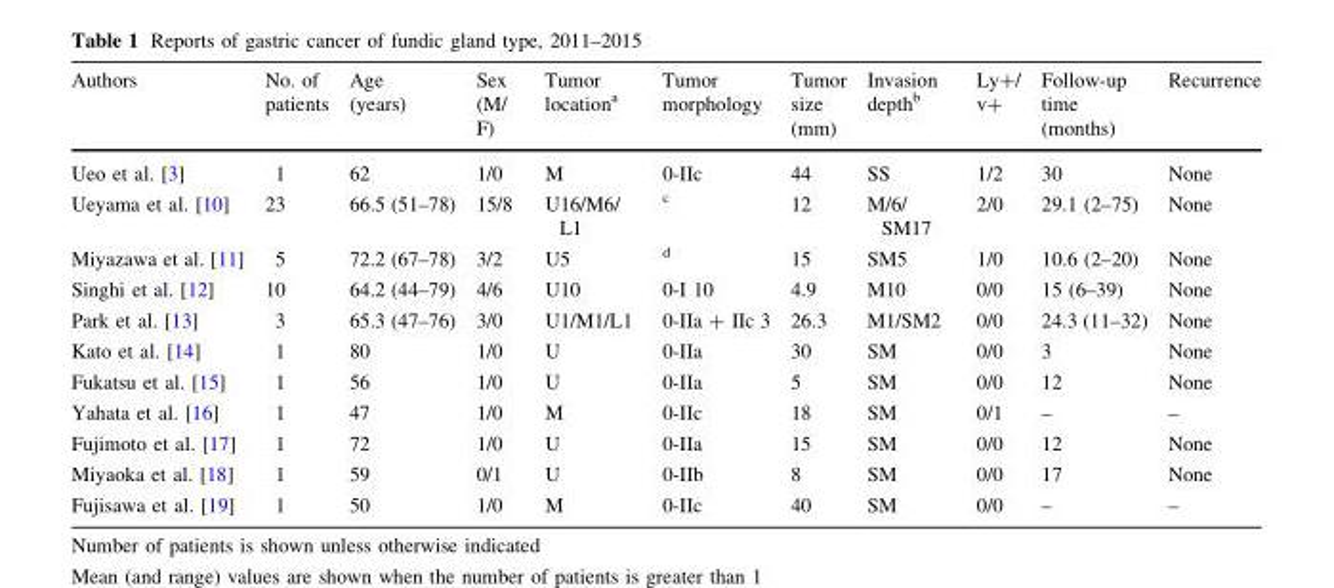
<table><thead><tr><td>Authors</td><td>No. of patients</td><td>Age (years)</td><td>Sex (M/ F)</td><td>Tumor location<sup>a</sup></td><td>Tumor morphology</td><td>Tumor size (mm)</td><td>Invasion depth<sup>b</sup></td><td>Ly+/ v+</td><td>Follow-up time (months)</td><td>Recurrence</td></tr></thead><tbody><tr><td>Ueo et al. [3]</td><td>1</td><td>62</td><td>1/0</td><td>M</td><td>0-IIc</td><td>44</td><td>SS</td><td>1/2</td><td>30</td><td>None</td></tr><tr><td>Ueyama et al. [10]</td><td>23</td><td>66.5 (51–78)</td><td>15/8</td><td>U16/M6/ L1</td><td><sup>c</sup></td><td>12</td><td>M/6/ SM17</td><td>2/0</td><td>29.1 (2–75)</td><td>None</td></tr><tr><td>Miyazawa et al. [11]</td><td>5</td><td>72.2 (67–78)</td><td>3/2</td><td>U5</td><td><sup>d</sup></td><td>15</td><td>SM5</td><td>1/0</td><td>10.6 (2–20)</td><td>None</td></tr><tr><td>Singhi et al. [12]</td><td>10</td><td>64.2 (44–79)</td><td>4/6</td><td>U10</td><td>0-I 10</td><td>4.9</td><td>M10</td><td>0/0</td><td>15 (6–39)</td><td>None</td></tr><tr><td>Park et al. [13]</td><td>3</td><td>65.3 (47–76)</td><td>3/0</td><td>U1/M1/L1</td><td>0-IIa + IIc 3</td><td>26.3</td><td>M1/SM2</td><td>0/0</td><td>24.3 (11–32)</td><td>None</td></tr><tr><td>Kato et al. [14]</td><td>1</td><td>80</td><td>1/0</td><td>U</td><td>0-IIa</td><td>30</td><td>SM</td><td>0/0</td><td>3</td><td>None</td></tr><tr><td>Fukatsu et al. [15]</td><td>1</td><td>56</td><td>1/0</td><td>U</td><td>0-IIa</td><td>5</td><td>SM</td><td>0/0</td><td>12</td><td>None</td></tr><tr><td>Yahata et al. [16]</td><td>1</td><td>47</td><td>1/0</td><td>M</td><td>0-IIc</td><td>18</td><td>SM</td><td>0/1</td><td>–</td><td>–</td></tr><tr><td>Fujimoto et al. [17]</td><td>1</td><td>72</td><td>1/0</td><td>U</td><td>0-IIa</td><td>15</td><td>SM</td><td>0/0</td><td>12</td><td>None</td></tr><tr><td>Miyaoka et al. [18]</td><td>1</td><td>59</td><td>0/1</td><td>U</td><td>0-IIb</td><td>8</td><td>SM</td><td>0/0</td><td>17</td><td>None</td></tr><tr><td>Fujisawa et al. [19]</td><td>1</td><td>50</td><td>1/0</td><td>M</td><td>0-IIc</td><td>40</td><td>SM</td><td>0/0</td><td>–</td><td>–</td></tr></tbody></table>